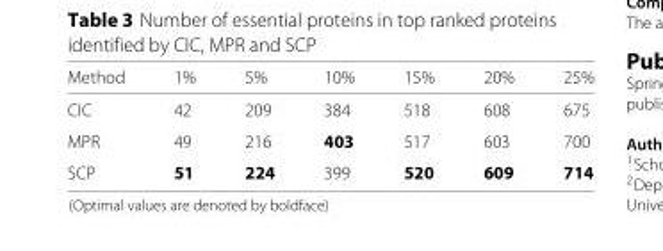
<table><thead><tr><td>Method</td><td>1%</td><td>5%</td><td>10%</td><td>15%</td><td>20%</td><td>25%</td></tr></thead><tbody><tr><td>CIC</td><td>42</td><td>209</td><td>384</td><td>518</td><td>608</td><td>675</td></tr><tr><td>MPR</td><td>49</td><td>216</td><td>403</td><td>517</td><td>603</td><td>700</td></tr><tr><td>SCP</td><td>51</td><td>224</td><td>399</td><td>520</td><td>609</td><td>714</td></tr></tbody></table>